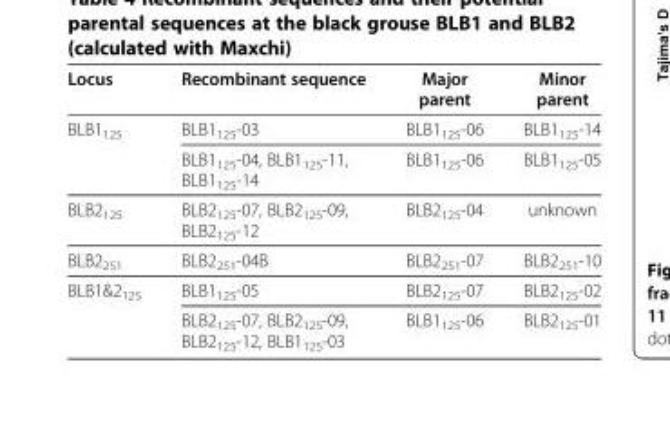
<table><thead><tr><td>Locus</td><td>Recombinant sequence</td><td>Major parent</td><td>Minor parent</td></tr></thead><tbody><tr><td rowspan="2">BLB1<sub>125</sub></td><td>BLB1<sub>125</sub>-03</td><td>BLB1<sub>125</sub>-06</td><td>BLB1<sub>125</sub>-14</td></tr><tr><td>BLB1<sub>125</sub>-04, BLB1<sub>125</sub>-11, BLB1<sub>125</sub>-14</td><td>BLB1<sub>125</sub>-06</td><td>BLB1<sub>125</sub>-05</td></tr><tr><td>BLB2<sub>125</sub></td><td>BLB2<sub>125</sub>-07, BLB2<sub>125</sub>-09, BLB2<sub>125</sub>-12</td><td>BLB2<sub>125</sub>-04</td><td>unknown</td></tr><tr><td>BLB2<sub>251</sub></td><td>BLB2<sub>251</sub>-04B</td><td>BLB2<sub>251</sub>-07</td><td>BLB2<sub>251</sub>-10</td></tr><tr><td rowspan="2">BLB1&amp;2<sub>125</sub></td><td>BLB1<sub>125</sub>-05</td><td>BLB2<sub>125</sub>-07</td><td>BLB2<sub>125</sub>-02</td></tr><tr><td>BLB2<sub>125</sub>-07, BLB2<sub>125</sub>-09, BLB2<sub>125</sub>-12, BLB1<sub>125</sub>-03</td><td>BLB1<sub>125</sub>-06</td><td>BLB2<sub>125</sub>-01</td></tr></tbody></table>